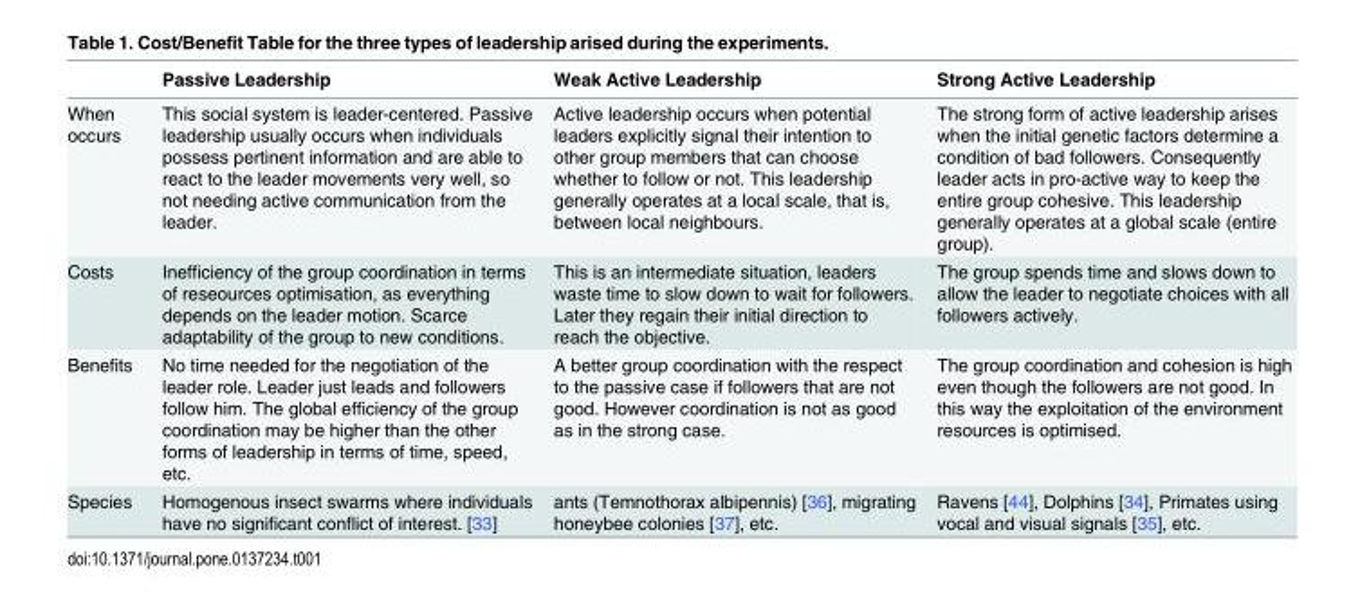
<table><thead><tr><td></td><td>Passive Leadership</td><td>Weak Active Leadership</td><td>Strong Active Leadership</td></tr></thead><tbody><tr><td>When occurs</td><td>This social system is leader-centered. Passive leadership usually occurs when individuals possess pertinent information and are able to react to the leader movements very well, so not needing active communication from the leader.</td><td>Active leadership occurs when potential leaders explicitly signal their intention to other group members that can choose whether to follow or not. This leadership generally operates at a local scale, that is, between local neighbours.</td><td>The strong form of active leadership arises when the initial genetic factors determine a condition of bad followers. Consequently leader acts in pro-active way to keep the entire group cohesive. This leadership generally operates at a global scale (entire group).</td></tr><tr><td>Costs</td><td>Inefficiency of the group coordination in terms of reseources optimisation, as everything depends on the leader motion. Scarce adaptability of the group to new conditions.</td><td>This is an intermediate situation, leaders waste time to slow down to wait for followers. Later they regain their initial direction to reach the objective.</td><td>The group spends time and slows down to allow the leader to negotiate choices with all followers actively.</td></tr><tr><td>Benefits</td><td>No time needed for the negotiation of the leader role. Leader just leads and followers follow him. The global efficiency of the group coordination may be higher than the other forms of leadership in terms of time, speed, etc.</td><td>A better group coordination with the respect to the passive case if followers that are not good. However coordination is not as good as in the strong case.</td><td>The group coordination and cohesion is high even though the followers are not good. In this way the exploitation of the environment resources is optimised.</td></tr><tr><td>Species</td><td>Homogenous insect swarms where individuals have no significant conflict of interest. [33]</td><td>ants (Temnothorax albipennis) [36], migrating honeybee colonies [37], etc.</td><td>Ravens [44], Dolphins [34], Primates using vocal and visual signals [35], etc.</td></tr></tbody></table>